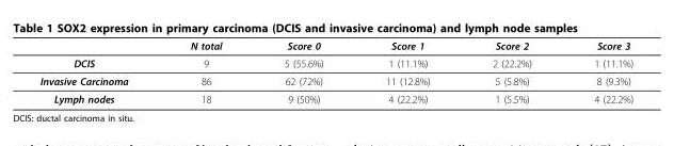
<table><thead><tr><td></td><td>N total</td><td>Score 0</td><td>Score 1</td><td>Score 2</td><td>Score 3</td></tr></thead><tbody><tr><td>DCIS</td><td>9</td><td>5 (55.6%)</td><td>1 (11.1%)</td><td>2 (22.2%)</td><td>1 (11.1%)</td></tr><tr><td>Invasive Carcinoma</td><td>86</td><td>62 (72%)</td><td>11 (12.8%)</td><td>5 (5.8%)</td><td>8 (9.3%)</td></tr><tr><td>Lymph nodes</td><td>18</td><td>9 (50%)</td><td>4 (22.2%)</td><td>1 (5.5%)</td><td>4 (22.2%)</td></tr></tbody></table>